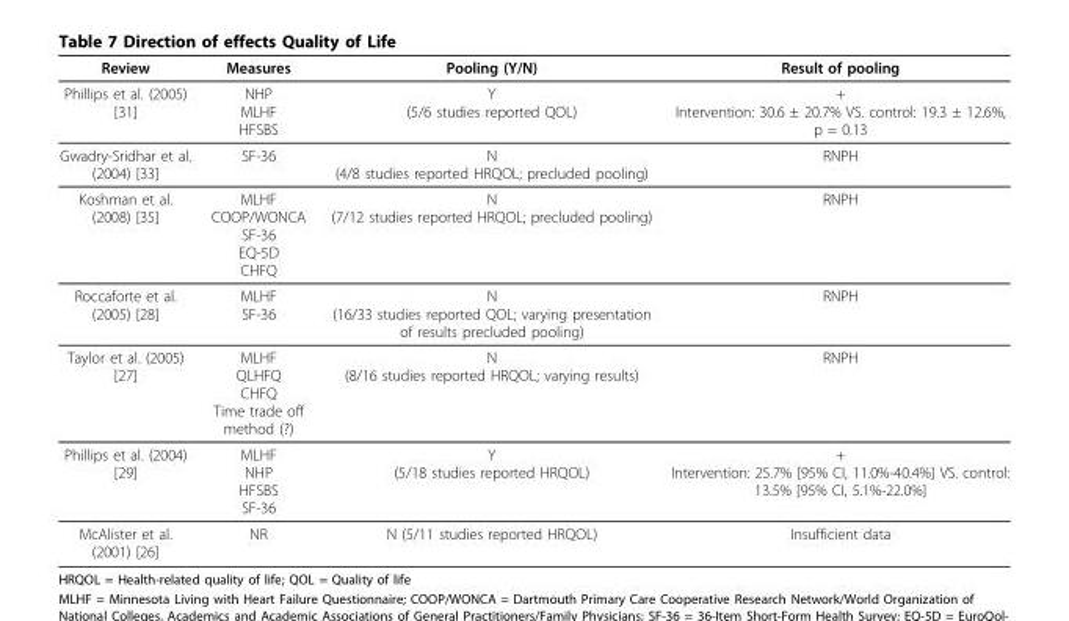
<table><thead><tr><td>Review</td><td>Measures</td><td>Pooling (Y/N)</td><td>Result of pooling</td></tr></thead><tbody><tr><td>Phillips et al. (2005) [31]</td><td>NHP MLHF HFSBS</td><td>Y (5/6 studies reported QOL)</td><td>+ Intervention: 30.6 ± 20.7% VS. control: 19.3 ± 12.6%, p = 0.13</td></tr><tr><td>Gwadry-Sridhar et al. (2004) [33]</td><td>SF-36</td><td>N (4/8 studies reported HRQOL; precluded pooling)</td><td>RNPH</td></tr><tr><td>Koshman et al. (2008) [35]</td><td>MLHF COOP/WONCA SF-36 EQ-5D CHFQ</td><td>N (7/12 studies reported HRQOL; precluded pooling)</td><td>RNPH</td></tr><tr><td>Roccaforte et al. (2005) [28]</td><td>MLHF SF-36</td><td>N (16/33 studies reported QOL; varying presentation of results precluded pooling)</td><td>RNPH</td></tr><tr><td>Taylor et al. (2005) [27]</td><td>MLHF QLHFQ CHFQ Time trade off method (?)</td><td>N (8/16 studies reported HRQOL; varying results)</td><td>RNPH</td></tr><tr><td>Phillips et al. (2004) [29]</td><td>MLHF NHP HFSBS SF-36</td><td>Y (5/18 studies reported HRQOL)</td><td>+ Intervention: 25.7% [95% CI, 11.0%-40.4%] VS. control: 13.5% [95% CI, 5.1%-22.0%]</td></tr><tr><td>McAlister et al. (2001) [26]</td><td>NR</td><td>N (5/11 studies reported HRQOL)</td><td>Insufficient data</td></tr></tbody></table>